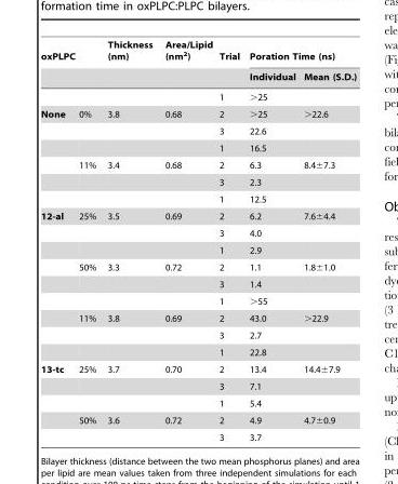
<table><thead><tr><td colspan="2">oxPLPC</td><td rowspan="2">Thickness (nm)</td><td rowspan="2">Area/Lipid (nm<sup>2</sup>)</td><td rowspan="2">Trial</td><td colspan="2">Poration Time (ns)</td></tr><tr><td></td><td></td><td>Individual</td><td>Mean (S.D.)</td></tr></thead><tbody><tr><td></td><td></td><td></td><td></td><td>1</td><td>&gt;25</td><td></td></tr><tr><td rowspan="6">None</td><td>0%</td><td>3.8</td><td>0.68</td><td>2</td><td>&gt;25</td><td>&gt;22.6</td></tr><tr><td></td><td></td><td></td><td>3</td><td>22.6</td><td></td></tr><tr><td></td><td></td><td></td><td>1</td><td>16.5</td><td></td></tr><tr><td>11%</td><td>3.4</td><td>0.68</td><td>2</td><td>6.3</td><td>8.4±7.3</td></tr><tr><td></td><td></td><td></td><td>3</td><td>2.3</td><td></td></tr><tr><td></td><td></td><td></td><td>1</td><td>12.5</td><td></td></tr><tr><td rowspan="9">12-al</td><td>25%</td><td>3.5</td><td>0.69</td><td>2</td><td>6.2</td><td>7.6±4.4</td></tr><tr><td></td><td></td><td></td><td>3</td><td>4.0</td><td></td></tr><tr><td></td><td></td><td></td><td>1</td><td>2.9</td><td></td></tr><tr><td>50%</td><td>3.3</td><td>0.72</td><td>2</td><td>1.1</td><td>1.8±1.0</td></tr><tr><td></td><td></td><td></td><td>3</td><td>1.4</td><td></td></tr><tr><td></td><td></td><td></td><td>1</td><td>&gt;55</td><td></td></tr><tr><td>11%</td><td>3.8</td><td>0.69</td><td>2</td><td>43.0</td><td>&gt;22.9</td></tr><tr><td></td><td></td><td></td><td>3</td><td>2.7</td><td></td></tr><tr><td></td><td></td><td></td><td>1</td><td>22.8</td><td></td></tr><tr><td rowspan="5">13-tc</td><td>25%</td><td>3.7</td><td>0.70</td><td>2</td><td>13.4</td><td>14.4±7.9</td></tr><tr><td></td><td></td><td></td><td>3</td><td>7.1</td><td></td></tr><tr><td></td><td></td><td></td><td>1</td><td>5.4</td><td></td></tr><tr><td>50%</td><td>3.6</td><td>0.72</td><td>2</td><td>4.9</td><td>4.7±0.9</td></tr><tr><td></td><td></td><td></td><td>3</td><td>3.7</td><td></td></tr></tbody></table>